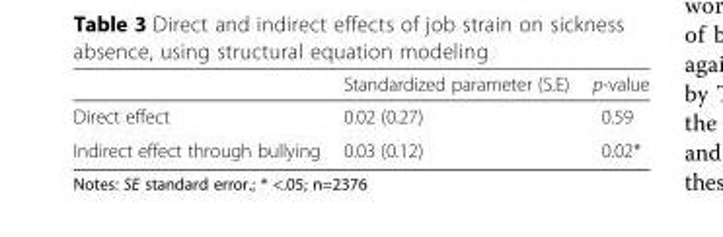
<table><thead><tr><td></td><td>Standardized parameter (S.E)</td><td>p-value</td></tr></thead><tbody><tr><td>Direct effect</td><td>0.02 (0.27)</td><td>0.59</td></tr><tr><td>Indirect effect through bullying</td><td>0.03 (0.12)</td><td>0.02*</td></tr></tbody></table>